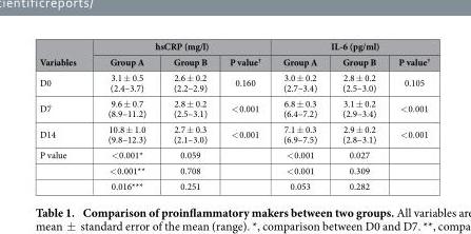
<table><thead><tr><td rowspan="2">Variables</td><td colspan="3">hsCRP (mg/l)</td><td colspan="3">IL-6 (pg/ml)</td></tr><tr><td>Group A</td><td>Group B</td><td>P value<sup>†</sup></td><td>Group A</td><td>Group B</td><td>P value<sup>†</sup></td></tr></thead><tbody><tr><td>D0</td><td>3.1 ± 0.5 (2.4–3.7)</td><td>2.6 ± 0.2 (2.2–2.9)</td><td>0.160</td><td>3.0 ± 0.2 (2.7–3.4)</td><td>2.8 ± 0.2 (2.5–3.0)</td><td>0.105</td></tr><tr><td>D7</td><td>9.6 ± 0.7 (8.9–11.2)</td><td>2.8 ± 0.2 (2.5–3.1)</td><td>&lt; 0.001</td><td>6.8 ± 0.3 (6.4–7.2)</td><td>3.1 ± 0.2 (2.9–3.4)</td><td>&lt; 0.001</td></tr><tr><td>D14</td><td>10.8 ± 1.0 (9.8–12.3)</td><td>2.7 ± 0.3 (2.1–3.0)</td><td>&lt; 0.001</td><td>7.1 ± 0.3 (6.9–7.5)</td><td>2.9 ± 0.2 (2.8–3.1)</td><td>&lt; 0.001</td></tr><tr><td rowspan="3">P value</td><td>&lt; 0.001*</td><td>0.059</td><td></td><td>&lt; 0.001</td><td>0.027</td><td></td></tr><tr><td>&lt; 0.001**</td><td>0.708</td><td></td><td>&lt; 0.001</td><td>0.309</td><td></td></tr><tr><td>0.016***</td><td>0.251</td><td></td><td>0.053</td><td>0.282</td><td></td></tr></tbody></table>